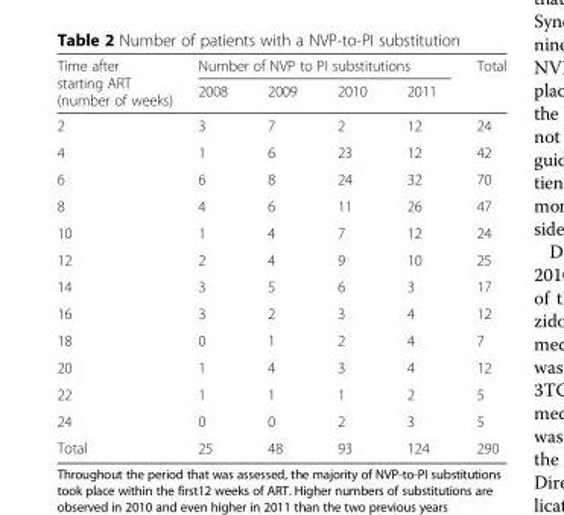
<table><thead><tr><td rowspan="2">Time after starting ART (number of weeks)</td><td colspan="4">Number of NVP to PI substitutions</td><td rowspan="2">Total</td></tr><tr><td>2008</td><td>2009</td><td>2010</td><td>2011</td></tr></thead><tbody><tr><td>2</td><td>3</td><td>7</td><td>2</td><td>12</td><td>24</td></tr><tr><td>4</td><td>1</td><td>6</td><td>23</td><td>12</td><td>42</td></tr><tr><td>6</td><td>6</td><td>8</td><td>24</td><td>32</td><td>70</td></tr><tr><td>8</td><td>4</td><td>6</td><td>11</td><td>26</td><td>47</td></tr><tr><td>10</td><td>1</td><td>4</td><td>7</td><td>12</td><td>24</td></tr><tr><td>12</td><td>2</td><td>4</td><td>9</td><td>10</td><td>25</td></tr><tr><td>14</td><td>3</td><td>5</td><td>6</td><td>3</td><td>17</td></tr><tr><td>16</td><td>3</td><td>2</td><td>3</td><td>4</td><td>12</td></tr><tr><td>18</td><td>0</td><td>1</td><td>2</td><td>4</td><td>7</td></tr><tr><td>20</td><td>1</td><td>4</td><td>3</td><td>4</td><td>12</td></tr><tr><td>22</td><td>1</td><td>1</td><td>1</td><td>2</td><td>5</td></tr><tr><td>24</td><td>0</td><td>0</td><td>2</td><td>3</td><td>5</td></tr><tr><td>Total</td><td>25</td><td>48</td><td>93</td><td>124</td><td>290</td></tr></tbody></table>